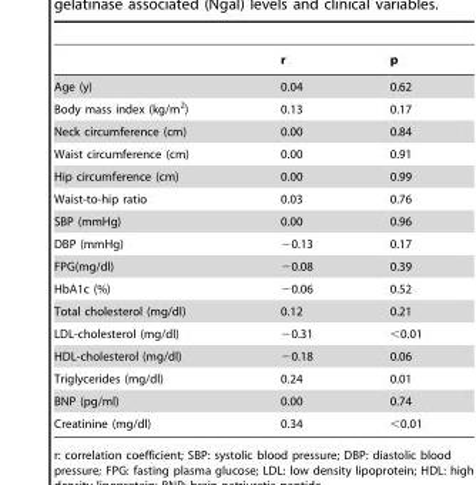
<table><thead><tr><td></td><td>r</td><td>p</td></tr></thead><tbody><tr><td>Age (y)</td><td>0.04</td><td>0.62</td></tr><tr><td>Body mass index (kg/m<sup>2</sup>)</td><td>0.13</td><td>0.17</td></tr><tr><td>Neck circumference (cm)</td><td>0.00</td><td>0.84</td></tr><tr><td>Waist circumference (cm)</td><td>0.00</td><td>0.91</td></tr><tr><td>Hip circumference (cm)</td><td>0.00</td><td>0.99</td></tr><tr><td>Waist-to-hip ratio</td><td>0.03</td><td>0.76</td></tr><tr><td>SBP (mmHg)</td><td>0.00</td><td>0.96</td></tr><tr><td>DBP (mmHg)</td><td>−0.13</td><td>0.17</td></tr><tr><td>FPG(mg/dl)</td><td>−0.08</td><td>0.39</td></tr><tr><td>HbA1c (%)</td><td>−0.06</td><td>0.52</td></tr><tr><td>Total cholesterol (mg/dl)</td><td>0.12</td><td>0.21</td></tr><tr><td>LDL-cholesterol (mg/dl)</td><td>−0.31</td><td>&lt;0.01</td></tr><tr><td>HDL-cholesterol (mg/dl)</td><td>−0.18</td><td>0.06</td></tr><tr><td>Triglycerides (mg/dl)</td><td>0.24</td><td>0.01</td></tr><tr><td>BNP (pg/ml)</td><td>0.00</td><td>0.74</td></tr><tr><td>Creatinine (mg/dl)</td><td>0.34</td><td>&lt;0.01</td></tr></tbody></table>